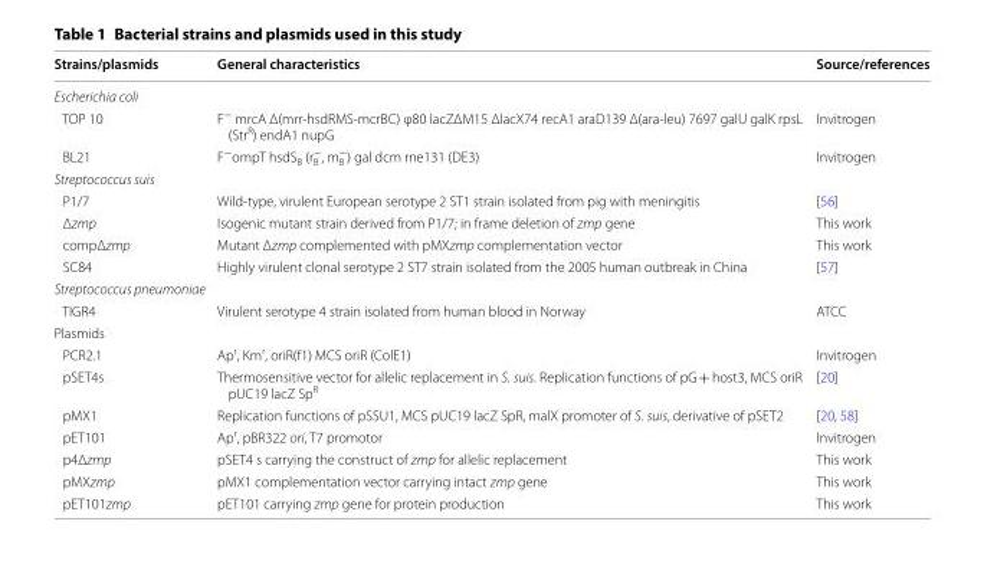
<table><thead><tr><td>Strains/plasmids</td><td>General characteristics</td><td>Source/references</td></tr></thead><tbody><tr><td colspan="3">Escherichia coli</td></tr><tr><td>TOP 10</td><td>F<sup>−</sup> mrcA Δ(mrr‑hsdRMS‑mcrBC) φ80 lacZΔM15 ΔlacX74 recA1 araD139 Δ(ara‑leu) 7697 galU galK rpsL (Str<sup>R</sup>) endA1 nupG</td><td>Invitrogen</td></tr><tr><td>BL21</td><td>F<sup>−</sup>ompT hsdS<sub>B</sub> (r<sub>B</sub> <sup>−</sup>, m<sub>B</sub> <sup>−</sup>) gal dcm rne131 (DE3)</td><td>Invitrogen</td></tr><tr><td colspan="3">Streptococcus suis</td></tr><tr><td>P1/7</td><td>Wild‑type, virulent European serotype 2 ST1 strain isolated from pig with meningitis</td><td>[56]</td></tr><tr><td>Δzmp</td><td>Isogenic mutant strain derived from P1/7; in frame deletion of zmp gene</td><td>This work</td></tr><tr><td>compΔzmp</td><td>Mutant Δzmp complemented with pMXzmp complementation vector</td><td>This work</td></tr><tr><td>SC84</td><td>Highly virulent clonal serotype 2 ST7 strain isolated from the 2005 human outbreak in China</td><td>[57]</td></tr><tr><td colspan="3">Streptococcus pneumoniae</td></tr><tr><td>TIGR4</td><td>Virulent serotype 4 strain isolated from human blood in Norway</td><td>ATCC</td></tr><tr><td colspan="3">Plasmids</td></tr><tr><td>PCR2.1</td><td>Ap<sup>r</sup>, Km<sup>r</sup>, oriR(f1) MCS oriR (ColE1)</td><td>Invitrogen</td></tr><tr><td>pSET4s</td><td>Thermosensitive vector for allelic replacement in S. suis. Replication functions of pG + host3, MCS oriR pUC19 lacZ Sp<sup>R</sup></td><td>[20]</td></tr><tr><td>pMX1</td><td>Replication functions of pSSU1, MCS pUC19 lacZ SpR, malX promoter of S. suis, derivative of pSET2</td><td>[20, 58]</td></tr><tr><td>pET101</td><td>Ap<sup>r</sup>, pBR322 ori, T7 promotor</td><td>Invitrogen</td></tr><tr><td>p4Δzmp</td><td>pSET4 s carrying the construct of zmp for allelic replacement</td><td>This work</td></tr><tr><td>pMXzmp</td><td>pMX1 complementation vector carrying intact zmp gene</td><td>This work</td></tr><tr><td>pET101zmp</td><td>pET101 carrying zmp gene for protein production</td><td>This work</td></tr></tbody></table>